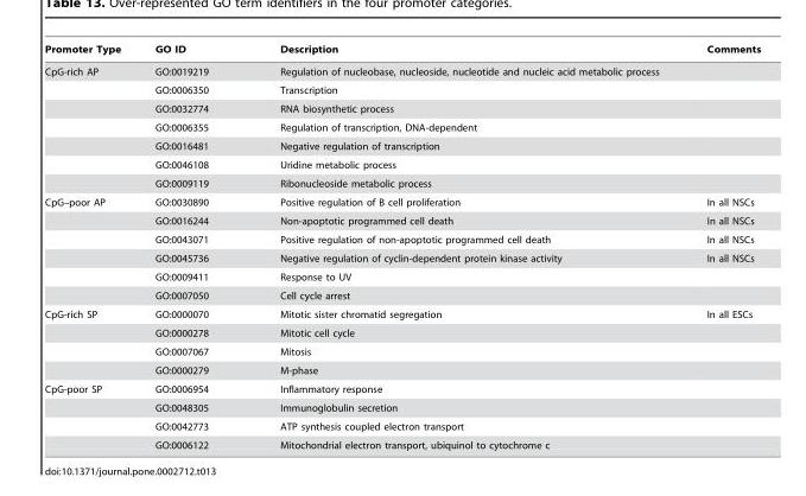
<table><thead><tr><td>Promoter Type</td><td>GO ID</td><td>Description</td><td>Comments</td></tr></thead><tbody><tr><td rowspan="7">CpG-rich AP</td><td>GO:0019219</td><td>Regulation of nucleobase, nucleoside, nucleotide and nucleic acid metabolic process</td><td></td></tr><tr><td>GO:0006350</td><td>Transcription</td><td></td></tr><tr><td>GO:0032774</td><td>RNA biosynthetic process</td><td></td></tr><tr><td>GO:0006355</td><td>Regulation of transcription, DNA-dependent</td><td></td></tr><tr><td>GO:0016481</td><td>Negative regulation of transcription</td><td></td></tr><tr><td>GO:0046108</td><td>Uridine metabolic process</td><td></td></tr><tr><td>GO:0009119</td><td>Ribonucleoside metabolic process</td><td></td></tr><tr><td rowspan="6">CpG–poor AP</td><td>GO:0030890</td><td>Positive regulation of B cell proliferation</td><td>In all NSCs</td></tr><tr><td>GO:0016244</td><td>Non-apoptotic programmed cell death</td><td>In all NSCs</td></tr><tr><td>GO:0043071</td><td>Positive regulation of non-apoptotic programmed cell death</td><td>In all NSCs</td></tr><tr><td>GO:0045736</td><td>Negative regulation of cyclin-dependent protein kinase activity</td><td>In all NSCs</td></tr><tr><td>GO:0009411</td><td>Response to UV</td><td></td></tr><tr><td>GO:0007050</td><td>Cell cycle arrest</td><td></td></tr><tr><td rowspan="4">CpG-rich SP</td><td>GO:0000070</td><td>Mitotic sister chromatid segregation</td><td>In all ESCs</td></tr><tr><td>GO:0000278</td><td>Mitotic cell cycle</td><td></td></tr><tr><td>GO:0007067</td><td>Mitosis</td><td></td></tr><tr><td>GO:0000279</td><td>M-phase</td><td></td></tr><tr><td rowspan="4">CpG-poor SP</td><td>GO:0006954</td><td>Inflammatory response</td><td></td></tr><tr><td>GO:0048305</td><td>Immunoglobulin secretion</td><td></td></tr><tr><td>GO:0042773</td><td>ATP synthesis coupled electron transport</td><td></td></tr><tr><td>GO:0006122</td><td>Mitochondrial electron transport, ubiquinol to cytochrome c</td><td></td></tr></tbody></table>